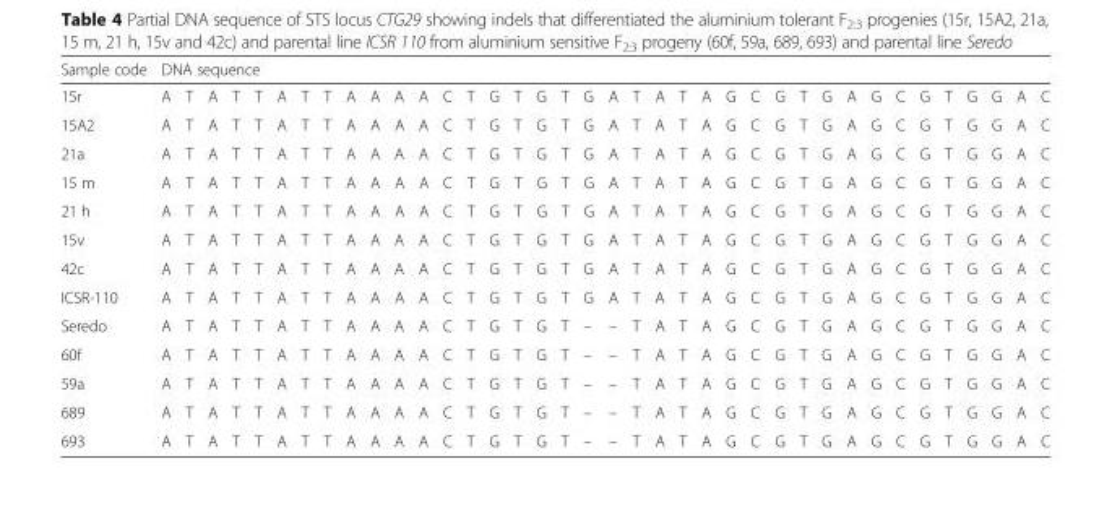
<table><thead><tr><td rowspan="2">Sample code 15r</td><td colspan="38">DNA sequence</td></tr><tr><td>A</td><td>T</td><td>A</td><td>T</td><td>T</td><td>A</td><td>T</td><td>T</td><td>A</td><td>A</td><td>A</td><td>A</td><td>C</td><td>T</td><td>G</td><td>T</td><td>G</td><td>T</td><td>G</td><td>A</td><td>T</td><td>A</td><td>T</td><td>A</td><td>G</td><td>C</td><td>G</td><td>T</td><td>G</td><td>A</td><td>G</td><td>C</td><td>G</td><td>T</td><td>G</td><td>G</td><td>A</td><td>C</td></tr></thead><tbody><tr><td>15A2</td><td>A</td><td>T</td><td>A</td><td>T</td><td>T</td><td>A</td><td>T</td><td>T</td><td>A</td><td>A</td><td>A</td><td>A</td><td>C</td><td>T</td><td>G</td><td>T</td><td>G</td><td>T</td><td>G</td><td>A</td><td>T</td><td>A</td><td>T</td><td>A</td><td>G</td><td>C</td><td>G</td><td>T</td><td>G</td><td>A</td><td>G</td><td>C</td><td>G</td><td>T</td><td>G</td><td>G</td><td>A</td><td>C</td></tr><tr><td>21a</td><td>A</td><td>T</td><td>A</td><td>T</td><td>T</td><td>A</td><td>T</td><td>T</td><td>A</td><td>A</td><td>A</td><td>A</td><td>C</td><td>T</td><td>G</td><td>T</td><td>G</td><td>T</td><td>G</td><td>A</td><td>T</td><td>A</td><td>T</td><td>A</td><td>G</td><td>C</td><td>G</td><td>T</td><td>G</td><td>A</td><td>G</td><td>C</td><td>G</td><td>T</td><td>G</td><td>G</td><td>A</td><td>C</td></tr><tr><td>15 m</td><td>A</td><td>T</td><td>A</td><td>T</td><td>T</td><td>A</td><td>T</td><td>T</td><td>A</td><td>A</td><td>A</td><td>A</td><td>C</td><td>T</td><td>G</td><td>T</td><td>G</td><td>T</td><td>G</td><td>A</td><td>T</td><td>A</td><td>T</td><td>A</td><td>G</td><td>C</td><td>G</td><td>T</td><td>G</td><td>A</td><td>G</td><td>C</td><td>G</td><td>T</td><td>G</td><td>G</td><td>A</td><td>C</td></tr><tr><td>21 h</td><td>A</td><td>T</td><td>A</td><td>T</td><td>T</td><td>A</td><td>T</td><td>T</td><td>A</td><td>A</td><td>A</td><td>A</td><td>C</td><td>T</td><td>G</td><td>T</td><td>G</td><td>T</td><td>G</td><td>A</td><td>T</td><td>A</td><td>T</td><td>A</td><td>G</td><td>C</td><td>G</td><td>T</td><td>G</td><td>A</td><td>G</td><td>C</td><td>G</td><td>T</td><td>G</td><td>G</td><td>A</td><td>C</td></tr><tr><td>15v</td><td>A</td><td>T</td><td>A</td><td>T</td><td>T</td><td>A</td><td>T</td><td>T</td><td>A</td><td>A</td><td>A</td><td>A</td><td>C</td><td>T</td><td>G</td><td>T</td><td>G</td><td>T</td><td>G</td><td>A</td><td>T</td><td>A</td><td>T</td><td>A</td><td>G</td><td>C</td><td>G</td><td>T</td><td>G</td><td>A</td><td>G</td><td>C</td><td>G</td><td>T</td><td>G</td><td>G</td><td>A</td><td>C</td></tr><tr><td>42c</td><td>A</td><td>T</td><td>A</td><td>T</td><td>T</td><td>A</td><td>T</td><td>T</td><td>A</td><td>A</td><td>A</td><td>A</td><td>C</td><td>T</td><td>G</td><td>T</td><td>G</td><td>T</td><td>G</td><td>A</td><td>T</td><td>A</td><td>T</td><td>A</td><td>G</td><td>C</td><td>G</td><td>T</td><td>G</td><td>A</td><td>G</td><td>C</td><td>G</td><td>T</td><td>G</td><td>G</td><td>A</td><td>C</td></tr><tr><td>ICSR-110</td><td>A</td><td>T</td><td>A</td><td>T</td><td>T</td><td>A</td><td>T</td><td>T</td><td>A</td><td>A</td><td>A</td><td>A</td><td>C</td><td>T</td><td>G</td><td>T</td><td>G</td><td>T</td><td>G</td><td>A</td><td>T</td><td>A</td><td>T</td><td>A</td><td>G</td><td>C</td><td>G</td><td>T</td><td>G</td><td>A</td><td>G</td><td>C</td><td>G</td><td>T</td><td>G</td><td>G</td><td>A</td><td>C</td></tr><tr><td>Seredo</td><td>A</td><td>T</td><td>A</td><td>T</td><td>T</td><td>A</td><td>T</td><td>T</td><td>A</td><td>A</td><td>A</td><td>A</td><td>C</td><td>T</td><td>G</td><td>T</td><td>G</td><td>T</td><td>–</td><td>–</td><td>T</td><td>A</td><td>T</td><td>A</td><td>G</td><td>C</td><td>G</td><td>T</td><td>G</td><td>A</td><td>G</td><td>C</td><td>G</td><td>T</td><td>G</td><td>G</td><td>A</td><td>C</td></tr><tr><td>60f</td><td>A</td><td>T</td><td>A</td><td>T</td><td>T</td><td>A</td><td>T</td><td>T</td><td>A</td><td>A</td><td>A</td><td>A</td><td>C</td><td>T</td><td>G</td><td>T</td><td>G</td><td>T</td><td>–</td><td>–</td><td>T</td><td>A</td><td>T</td><td>A</td><td>G</td><td>C</td><td>G</td><td>T</td><td>G</td><td>A</td><td>G</td><td>C</td><td>G</td><td>T</td><td>G</td><td>G</td><td>A</td><td>C</td></tr><tr><td>59a</td><td>A</td><td>T</td><td>A</td><td>T</td><td>T</td><td>A</td><td>T</td><td>T</td><td>A</td><td>A</td><td>A</td><td>A</td><td>C</td><td>T</td><td>G</td><td>T</td><td>G</td><td>T</td><td>–</td><td>–</td><td>T</td><td>A</td><td>T</td><td>A</td><td>G</td><td>C</td><td>G</td><td>T</td><td>G</td><td>A</td><td>G</td><td>C</td><td>G</td><td>T</td><td>G</td><td>G</td><td>A</td><td>C</td></tr><tr><td>689</td><td>A</td><td>T</td><td>A</td><td>T</td><td>T</td><td>A</td><td>T</td><td>T</td><td>A</td><td>A</td><td>A</td><td>A</td><td>C</td><td>T</td><td>G</td><td>T</td><td>G</td><td>T</td><td>–</td><td>–</td><td>T</td><td>A</td><td>T</td><td>A</td><td>G</td><td>C</td><td>G</td><td>T</td><td>G</td><td>A</td><td>G</td><td>C</td><td>G</td><td>T</td><td>G</td><td>G</td><td>A</td><td>C</td></tr><tr><td>693</td><td>A</td><td>T</td><td>A</td><td>T</td><td>T</td><td>A</td><td>T</td><td>T</td><td>A</td><td>A</td><td>A</td><td>A</td><td>C</td><td>T</td><td>G</td><td>T</td><td>G</td><td>T</td><td>–</td><td>–</td><td>T</td><td>A</td><td>T</td><td>A</td><td>G</td><td>C</td><td>G</td><td>T</td><td>G</td><td>A</td><td>G</td><td>C</td><td>G</td><td>T</td><td>G</td><td>G</td><td>A</td><td>C</td></tr></tbody></table>